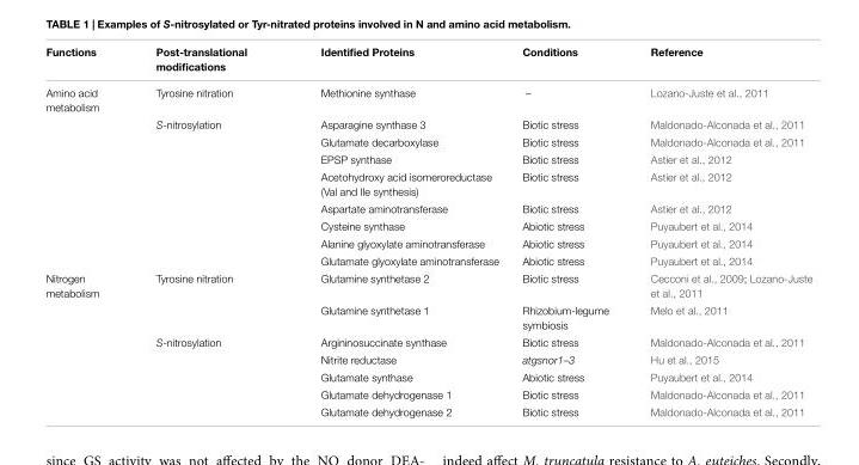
<table><thead><tr><td>Functions</td><td>Post-translational modifications</td><td>Identified Proteins</td><td>Conditions</td><td>Reference</td></tr></thead><tbody><tr><td rowspan="9">Amino acid metabolism</td><td>Tyrosine nitration</td><td>Methionine synthase</td><td>–</td><td>Lozano-Juste et al., 2011</td></tr><tr><td>S-nitrosylation</td><td>Asparagine synthase 3</td><td>Biotic stress</td><td>Maldonado-Alconada et al., 2011</td></tr><tr><td></td><td>Glutamate decarboxylase</td><td>Biotic stress</td><td>Maldonado-Alconada et al., 2011</td></tr><tr><td></td><td>EPSP synthase</td><td>Biotic stress</td><td>Astier et al., 2012</td></tr><tr><td></td><td>Acetohydroxy acid isomeroreductase (Val and Ile synthesis)</td><td>Biotic stress</td><td>Astier et al., 2012</td></tr><tr><td></td><td>Aspartate aminotransferase</td><td>Biotic stress</td><td>Astier et al., 2012</td></tr><tr><td></td><td>Cysteine synthase</td><td>Abiotic stress</td><td>Puyaubert et al., 2014</td></tr><tr><td></td><td>Alanine glyoxylate aminotransferase</td><td>Abiotic stress</td><td>Puyaubert et al., 2014</td></tr><tr><td></td><td>Glutamate glyoxylate aminotransferase</td><td>Abiotic stress</td><td>Puyaubert et al., 2014</td></tr><tr><td rowspan="7">Nitrogen metabolism</td><td>Tyrosine nitration</td><td>Glutamine synthetase 2</td><td>Biotic stress</td><td>Cecconi et al., 2009; Lozano-Juste et al., 2011</td></tr><tr><td></td><td>Glutamine synthetase 1</td><td>Rhizobium-legume symbiosis</td><td>Melo et al., 2011</td></tr><tr><td>S-nitrosylation</td><td>Argininosuccinate synthase</td><td>Biotic stress</td><td>Maldonado-Alconada et al., 2011</td></tr><tr><td></td><td>Nitrite reductase</td><td>atgsnor1–3</td><td>Hu et al., 2015</td></tr><tr><td></td><td>Glutamate synthase</td><td>Abiotic stress</td><td>Puyaubert et al., 2014</td></tr><tr><td></td><td>Glutamate dehydrogenase 1</td><td>Biotic stress</td><td>Maldonado-Alconada et al., 2011</td></tr><tr><td></td><td>Glutamate dehydrogenase 2</td><td>Biotic stress</td><td>Maldonado-Alconada et al., 2011</td></tr></tbody></table>